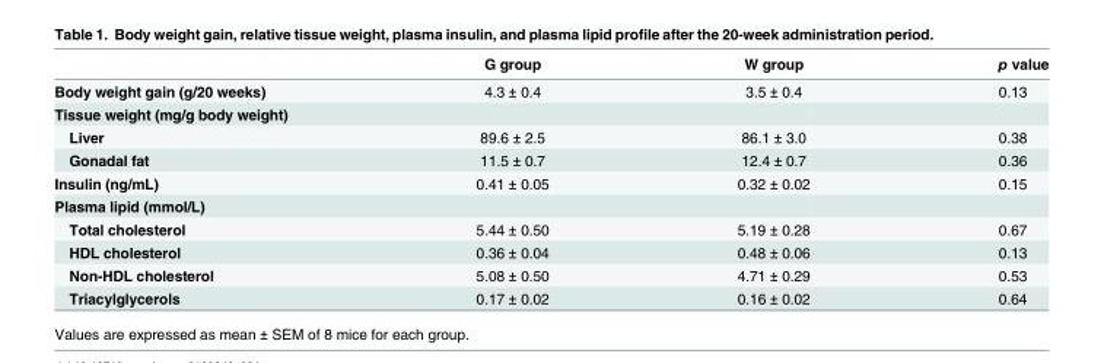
<table><thead><tr><td></td><td>G group</td><td>W group</td><td>p value</td></tr></thead><tbody><tr><td>Body weight gain (g/20 weeks)</td><td>4.3 ± 0.4</td><td>3.5 ± 0.4</td><td>0.13</td></tr><tr><td colspan="4">Tissue weight (mg/g body weight)</td></tr><tr><td>Liver</td><td>89.6 ± 2.5</td><td>86.1 ± 3.0</td><td>0.38</td></tr><tr><td>Gonadal fat</td><td>11.5 ± 0.7</td><td>12.4 ± 0.7</td><td>0.36</td></tr><tr><td>Insulin (ng/mL)</td><td>0.41 ± 0.05</td><td>0.32 ± 0.02</td><td>0.15</td></tr><tr><td colspan="4">Plasma lipid (mmol/L)</td></tr><tr><td>Total cholesterol</td><td>5.44 ± 0.50</td><td>5.19 ± 0.28</td><td>0.67</td></tr><tr><td>HDL cholesterol</td><td>0.36 ± 0.04</td><td>0.48 ± 0.06</td><td>0.13</td></tr><tr><td>Non-HDL cholesterol</td><td>5.08 ± 0.50</td><td>4.71 ± 0.29</td><td>0.53</td></tr><tr><td>Triacylglycerols</td><td>0.17 ± 0.02</td><td>0.16 ± 0.02</td><td>0.64</td></tr></tbody></table>